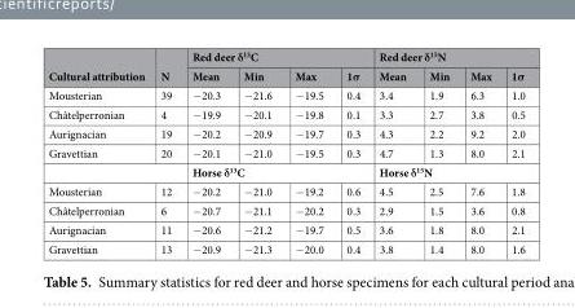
<table><thead><tr><td rowspan="2">Cultural attribution</td><td rowspan="2">N</td><td colspan="4">Red deer δ<sup>13</sup>C</td><td colspan="4">Red deer δ<sup>15</sup>N</td></tr><tr><td>Mean</td><td>Min</td><td>Max</td><td>1σ</td><td>Mean</td><td>Min</td><td>Max</td><td>1σ</td></tr></thead><tbody><tr><td>Mousterian</td><td>39</td><td>−20.3</td><td>−21.6</td><td>−19.5</td><td>0.4</td><td>3.4</td><td>1.9</td><td>6.3</td><td>1.0</td></tr><tr><td>Châtelperronian</td><td>4</td><td>−19.9</td><td>−20.1</td><td>−19.8</td><td>0.1</td><td>3.3</td><td>2.7</td><td>3.8</td><td>0.5</td></tr><tr><td>Aurignacian</td><td>19</td><td>−20.2</td><td>−20.9</td><td>−19.7</td><td>0.3</td><td>4.3</td><td>2.2</td><td>9.2</td><td>2.0</td></tr><tr><td>Gravettian</td><td>20</td><td>−20.1</td><td>−21.0</td><td>−19.5</td><td>0.3</td><td>4.7</td><td>1.3</td><td>8.0</td><td>2.1</td></tr><tr><td colspan="2"></td><td colspan="4">Horse δ<sup>13</sup>C</td><td colspan="4">Horse δ<sup>15</sup>N</td></tr><tr><td>Mousterian</td><td>12</td><td>−20.2</td><td>−21.0</td><td>−19.2</td><td>0.6</td><td>4.5</td><td>2.5</td><td>7.6</td><td>1.8</td></tr><tr><td>Châtelperronian</td><td>6</td><td>−20.7</td><td>−21.1</td><td>−20.2</td><td>0.3</td><td>2.9</td><td>1.5</td><td>3.6</td><td>0.8</td></tr><tr><td>Aurignacian</td><td>11</td><td>−20.6</td><td>−21.2</td><td>−19.7</td><td>0.5</td><td>3.6</td><td>1.8</td><td>8.0</td><td>2.1</td></tr><tr><td>Gravettian</td><td>13</td><td>−20.9</td><td>−21.3</td><td>−20.0</td><td>0.4</td><td>3.8</td><td>1.4</td><td>8.0</td><td>1.6</td></tr></tbody></table>